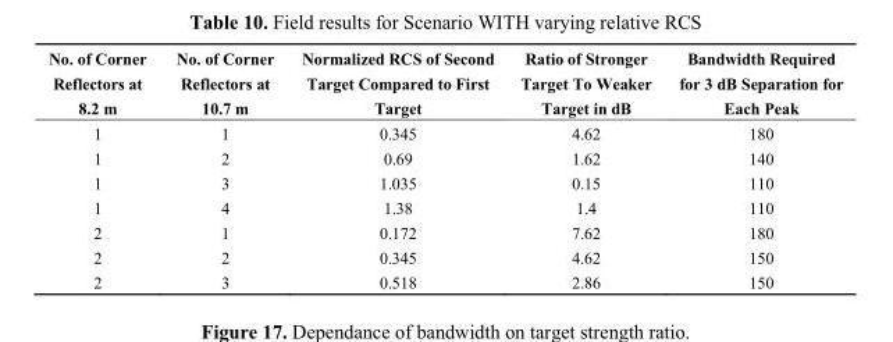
<table><thead><tr><td>No. of Corner Reflectors at 8.2 m</td><td>No. of Corner Reflectors at 10.7 m</td><td>Normalized RCS of Second Target Compared to First Target</td><td>Ratio of Stronger Target To Weaker Target in dB</td><td>Bandwidth Required for 3 dB Separation for Each Peak</td></tr></thead><tbody><tr><td>1</td><td>1</td><td>0.345</td><td>4.62</td><td>180</td></tr><tr><td>1</td><td>2</td><td>0.69</td><td>1.62</td><td>140</td></tr><tr><td>1</td><td>3</td><td>1.035</td><td>0.15</td><td>110</td></tr><tr><td>1</td><td>4</td><td>1.38</td><td>1.4</td><td>110</td></tr><tr><td>2</td><td>1</td><td>0.172</td><td>7.62</td><td>180</td></tr><tr><td>2</td><td>2</td><td>0.345</td><td>4.62</td><td>150</td></tr><tr><td>2</td><td>3</td><td>0.518</td><td>2.86</td><td>150</td></tr></tbody></table>